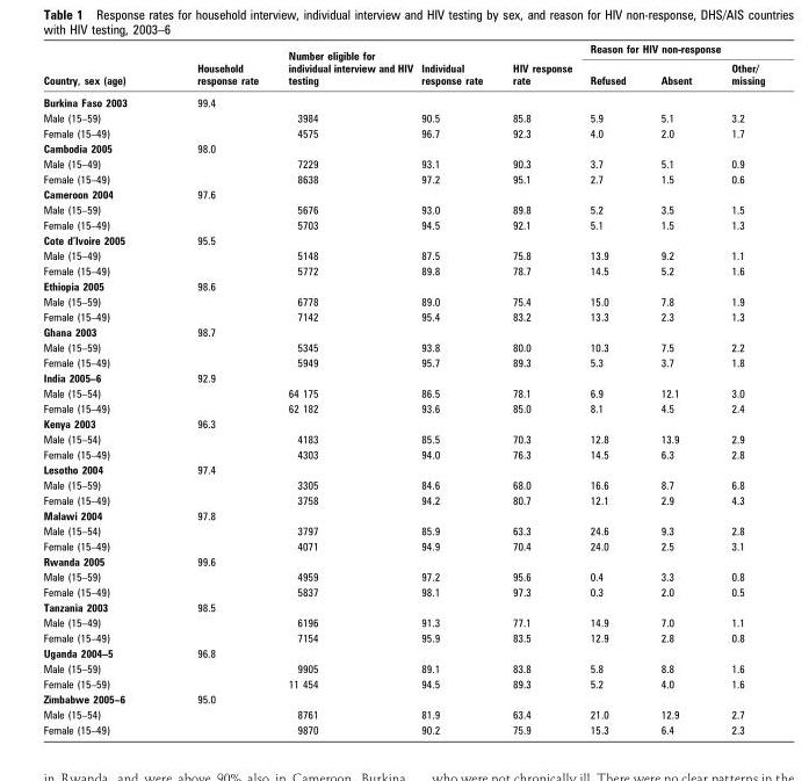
<table><thead><tr><td rowspan="2">Country, sex (age)</td><td rowspan="2">Household response rate</td><td rowspan="2">Number eligible for individual interview and HIV testing</td><td rowspan="2">Individual response rate</td><td rowspan="2">HIV response rate</td><td colspan="3">Reason for HIV non-response</td></tr><tr><td>Refused</td><td>Absent</td><td>Other/ missing</td></tr></thead><tbody><tr><td>Burkina Faso 2003</td><td>99.4</td><td></td><td></td><td></td><td></td><td></td><td></td></tr><tr><td>Male (15–59)</td><td></td><td>3984</td><td>90.5</td><td>85.8</td><td>5.9</td><td>5.1</td><td>3.2</td></tr><tr><td>Female (15–49)</td><td></td><td>4575</td><td>96.7</td><td>92.3</td><td>4.0</td><td>2.0</td><td>1.7</td></tr><tr><td>Cambodia 2005</td><td>98.0</td><td></td><td></td><td></td><td></td><td></td><td></td></tr><tr><td>Male (15–49)</td><td></td><td>7229</td><td>93.1</td><td>90.3</td><td>3.7</td><td>5.1</td><td>0.9</td></tr><tr><td>Female (15–49)</td><td></td><td>8638</td><td>97.2</td><td>95.1</td><td>2.7</td><td>1.5</td><td>0.6</td></tr><tr><td>Cameroon 2004</td><td>97.6</td><td></td><td></td><td></td><td></td><td></td><td></td></tr><tr><td>Male (15–59)</td><td></td><td>5676</td><td>93.0</td><td>89.8</td><td>5.2</td><td>3.5</td><td>1.5</td></tr><tr><td>Female (15–49)</td><td></td><td>5703</td><td>94.5</td><td>92.1</td><td>5.1</td><td>1.5</td><td>1.3</td></tr><tr><td>Cote d’Ivoire 2005</td><td>95.5</td><td></td><td></td><td></td><td></td><td></td><td></td></tr><tr><td>Male (15–49)</td><td></td><td>5148</td><td>87.5</td><td>75.8</td><td>13.9</td><td>9.2</td><td>1.1</td></tr><tr><td>Female (15–49)</td><td></td><td>5772</td><td>89.8</td><td>78.7</td><td>14.5</td><td>5.2</td><td>1.6</td></tr><tr><td>Ethiopia 2005</td><td>98.6</td><td></td><td></td><td></td><td></td><td></td><td></td></tr><tr><td>Male (15–59)</td><td></td><td>6778</td><td>89.0</td><td>75.4</td><td>15.0</td><td>7.8</td><td>1.9</td></tr><tr><td>Female (15–49)</td><td></td><td>7142</td><td>95.4</td><td>83.2</td><td>13.3</td><td>2.3</td><td>1.3</td></tr><tr><td>Ghana 2003</td><td>98.7</td><td></td><td></td><td></td><td></td><td></td><td></td></tr><tr><td>Male (15–59)</td><td></td><td>5345</td><td>93.8</td><td>80.0</td><td>10.3</td><td>7.5</td><td>2.2</td></tr><tr><td>Female (15–49)</td><td></td><td>5949</td><td>95.7</td><td>89.3</td><td>5.3</td><td>3.7</td><td>1.8</td></tr><tr><td>India 2005–6</td><td>92.9</td><td></td><td></td><td></td><td></td><td></td><td></td></tr><tr><td>Male (15–54)</td><td></td><td>64 175</td><td>86.5</td><td>78.1</td><td>6.9</td><td>12.1</td><td>3.0</td></tr><tr><td>Female (15–49)</td><td></td><td>62 182</td><td>93.6</td><td>85.0</td><td>8.1</td><td>4.5</td><td>2.4</td></tr><tr><td>Kenya 2003</td><td>96.3</td><td></td><td></td><td></td><td></td><td></td><td></td></tr><tr><td>Male (15–54)</td><td></td><td>4183</td><td>85.5</td><td>70.3</td><td>12.8</td><td>13.9</td><td>2.9</td></tr><tr><td>Female (15–49)</td><td></td><td>4303</td><td>94.0</td><td>76.3</td><td>14.5</td><td>6.3</td><td>2.8</td></tr><tr><td>Lesotho 2004</td><td>97.4</td><td></td><td></td><td></td><td></td><td></td><td></td></tr><tr><td>Male (15–59)</td><td></td><td>3305</td><td>84.6</td><td>68.0</td><td>16.6</td><td>8.7</td><td>6.8</td></tr><tr><td>Female (15–49)</td><td></td><td>3758</td><td>94.2</td><td>80.7</td><td>12.1</td><td>2.9</td><td>4.3</td></tr><tr><td>Malawi 2004</td><td>97.8</td><td></td><td></td><td></td><td></td><td></td><td></td></tr><tr><td>Male (15–54)</td><td></td><td>3797</td><td>85.9</td><td>63.3</td><td>24.6</td><td>9.3</td><td>2.8</td></tr><tr><td>Female (15–49)</td><td></td><td>4071</td><td>94.9</td><td>70.4</td><td>24.0</td><td>2.5</td><td>3.1</td></tr><tr><td>Rwanda 2005</td><td>99.6</td><td></td><td></td><td></td><td></td><td></td><td></td></tr><tr><td>Male (15–59)</td><td></td><td>4959</td><td>97.2</td><td>95.6</td><td>0.4</td><td>3.3</td><td>0.8</td></tr><tr><td>Female (15–49)</td><td></td><td>5837</td><td>98.1</td><td>97.3</td><td>0.3</td><td>2.0</td><td>0.5</td></tr><tr><td>Tanzania 2003</td><td>98.5</td><td></td><td></td><td></td><td></td><td></td><td></td></tr><tr><td>Male (15–49)</td><td></td><td>6196</td><td>91.3</td><td>77.1</td><td>14.9</td><td>7.0</td><td>1.1</td></tr><tr><td>Female (15–49)</td><td></td><td>7154</td><td>95.9</td><td>83.5</td><td>12.9</td><td>2.8</td><td>0.8</td></tr><tr><td>Uganda 2004–5</td><td>96.8</td><td></td><td></td><td></td><td></td><td></td><td></td></tr><tr><td>Male (15–59)</td><td></td><td>9905</td><td>89.1</td><td>83.8</td><td>5.8</td><td>8.8</td><td>1.6</td></tr><tr><td>Female (15–59)</td><td></td><td>11 454</td><td>94.5</td><td>89.3</td><td>5.2</td><td>4.0</td><td>1.6</td></tr><tr><td>Zimbabwe 2005–6</td><td>95.0</td><td></td><td></td><td></td><td></td><td></td><td></td></tr><tr><td>Male (15–54)</td><td></td><td>8761</td><td>81.9</td><td>63.4</td><td>21.0</td><td>12.9</td><td>2.7</td></tr><tr><td>Female (15–49)</td><td></td><td>9870</td><td>90.2</td><td>75.9</td><td>15.3</td><td>6.4</td><td>2.3</td></tr></tbody></table>